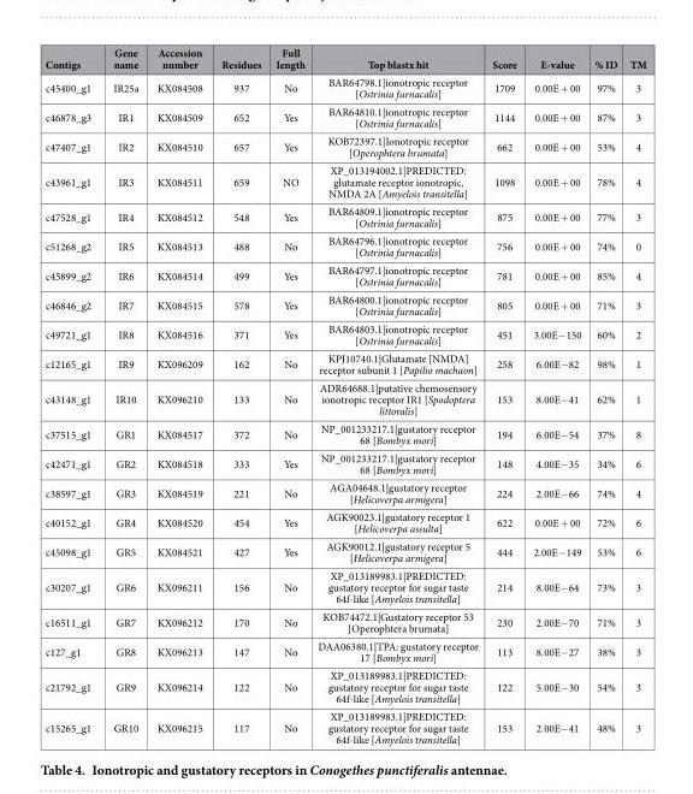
<table><thead><tr><td>Contigs</td><td>Gene name</td><td>Accession number</td><td>Residues</td><td>Full length</td><td>Top blastx hit</td><td>Score</td><td>E-value</td><td>% ID</td><td>TM</td></tr></thead><tbody><tr><td>c45400_g1</td><td>IR25a</td><td>KX084508</td><td>937</td><td>No</td><td>BAR64798.1|ionotropic receptor [Ostrinia furnacalis]</td><td>1709</td><td>0.00E + 00</td><td>97%</td><td>3</td></tr><tr><td>c46878_g3</td><td>IR1</td><td>KX084509</td><td>652</td><td>Yes</td><td>BAR64810.1|ionotropic receptor [Ostrinia furnacalis]</td><td>1144</td><td>0.00E + 00</td><td>87%</td><td>3</td></tr><tr><td>c47407_g1</td><td>IR2</td><td>KX084510</td><td>657</td><td>Yes</td><td>KOB72397.1|Ionotropic receptor [Operophtera brumata]</td><td>662</td><td>0.00E + 00</td><td>53%</td><td>4</td></tr><tr><td>c43961_g1</td><td>IR3</td><td>KX084511</td><td>659</td><td>NO</td><td>XP_013194002.1|PREDICTED: glutamate receptor ionotropic, NMDA 2A [Amyelois transitella]</td><td>1098</td><td>0.00E + 00</td><td>78%</td><td>4</td></tr><tr><td>c47528_g1</td><td>IR4</td><td>KX084512</td><td>548</td><td>Yes</td><td>BAR64809.1|ionotropic receptor [Ostrinia furnacalis]</td><td>875</td><td>0.00E + 00</td><td>77%</td><td>3</td></tr><tr><td>c51268_g2</td><td>IR5</td><td>KX084513</td><td>488</td><td>No</td><td>BAR64796.1|ionotropic receptor [Ostrinia furnacalis]</td><td>756</td><td>0.00E + 00</td><td>74%</td><td>0</td></tr><tr><td>c45899_g2</td><td>IR6</td><td>KX084514</td><td>499</td><td>Yes</td><td>BAR64797.1|ionotropic receptor [Ostrinia furnacalis]</td><td>781</td><td>0.00E + 00</td><td>85%</td><td>4</td></tr><tr><td>c46846_g2</td><td>IR7</td><td>KX084515</td><td>578</td><td>Yes</td><td>BAR64800.1|ionotropic receptor [Ostrinia furnacalis]</td><td>805</td><td>0.00E + 00</td><td>71%</td><td>3</td></tr><tr><td>c49721_g1</td><td>IR8</td><td>KX084516</td><td>371</td><td>Yes</td><td>BAR64803.1|ionotropic receptor [Ostrinia furnacalis]</td><td>451</td><td>3.00E− 150</td><td>60%</td><td>2</td></tr><tr><td>c12165_g1</td><td>IR9</td><td>KX096209</td><td>162</td><td>No</td><td>KPJ10740.1|Glutamate [NMDA] receptor subunit 1 [Papilio machaon]</td><td>258</td><td>6.00E− 82</td><td>98%</td><td>1</td></tr><tr><td>c43148_g1</td><td>IR10</td><td>KX096210</td><td>133</td><td>No</td><td>ADR64688.1|putative chemosensory ionotropic receptor IR1 [Spodoptera littoralis]</td><td>153</td><td>8.00E− 41</td><td>62%</td><td>1</td></tr><tr><td>c37515_g1</td><td>GR1</td><td>KX084517</td><td>372</td><td>No</td><td>NP_001233217.1|gustatory receptor 68 [Bombyx mori]</td><td>194</td><td>6.00E− 54</td><td>37%</td><td>8</td></tr><tr><td>c42471_g1</td><td>GR2</td><td>KX084518</td><td>333</td><td>Yes</td><td>NP_001233217.1|gustatory receptor 68 [Bombyx mori]</td><td>148</td><td>4.00E− 35</td><td>34%</td><td>6</td></tr><tr><td>c38597_g1</td><td>GR3</td><td>KX084519</td><td>221</td><td>No</td><td>AGA04648.1|gustatory receptor [Helicoverpa armigera]</td><td>224</td><td>2.00E− 66</td><td>74%</td><td>4</td></tr><tr><td>c40152_g1</td><td>GR4</td><td>KX084520</td><td>454</td><td>Yes</td><td>AGK90023.1|gustatory receptor 1 [Helicoverpa assulta]</td><td>622</td><td>0.00E + 00</td><td>72%</td><td>6</td></tr><tr><td>c45098_g1</td><td>GR5</td><td>KX084521</td><td>427</td><td>Yes</td><td>AGK90012.1|gustatory receptor 5 [Helicoverpa armigera]</td><td>444</td><td>2.00E− 149</td><td>53%</td><td>6</td></tr><tr><td>c30207_g1</td><td>GR6</td><td>KX096211</td><td>156</td><td>No</td><td>XP_013189983.1|PREDICTED: gustatory receptor for sugar taste 64f-like [Amyelois transitella]</td><td>214</td><td>8.00E− 64</td><td>73%</td><td>3</td></tr><tr><td>c16511_g1</td><td>GR7</td><td>KX096212</td><td>170</td><td>No</td><td>KOB74472.1|Gustatory receptor 53 [Operophtera brumata]</td><td>230</td><td>2.00E− 70</td><td>71%</td><td>3</td></tr><tr><td>c127_g1</td><td>GR8</td><td>KX096213</td><td>147</td><td>No</td><td>DAA06380.1|TPA: gustatory receptor 17 [Bombyx mori]</td><td>113</td><td>8.00E− 27</td><td>38%</td><td>3</td></tr><tr><td>c21792_g1</td><td>GR9</td><td>KX096214</td><td>122</td><td>No</td><td>XP_013189983.1|PREDICTED: gustatory receptor for sugar taste 64f-like [Amyelois transitella]</td><td>122</td><td>5.00E− 30</td><td>54%</td><td>3</td></tr><tr><td>c15265_g1</td><td>GR10</td><td>KX096215</td><td>117</td><td>No</td><td>XP_013189983.1|PREDICTED: gustatory receptor for sugar taste 64f-like [Amyelois transitella]</td><td>153</td><td>2.00E− 41</td><td>48%</td><td>3</td></tr></tbody></table>